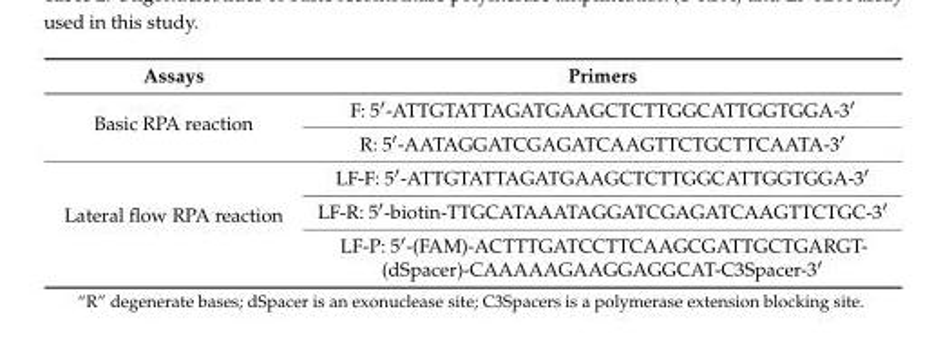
<table><thead><tr><td>Assays</td><td>Primers</td></tr></thead><tbody><tr><td rowspan="2">Basic RPA reaction</td><td>F: 5′-ATTGTATTAGATGAAGCTCTTGGCATTGGTGGA-3′</td></tr><tr><td>R: 5′-AATAGGATCGAGATCAAGTTCTGCTTCAATA-3′</td></tr><tr><td rowspan="3">Lateral flow RPA reaction</td><td>LF-F: 5′-ATTGTATTAGATGAAGCTCTTGGCATTGGTGGA-3′</td></tr><tr><td>LF-R: 5′-biotin-TTGCATAAATAGGATCGAGATCAAGTTCTGC-3′</td></tr><tr><td>LF-P: 5′-(FAM)-ACTTTGATCCTTCAAGCGATTGCTGARGT- (dSpacer)-CAAAAAGAAGGAGGCAT-C3Spacer-3′</td></tr></tbody></table>